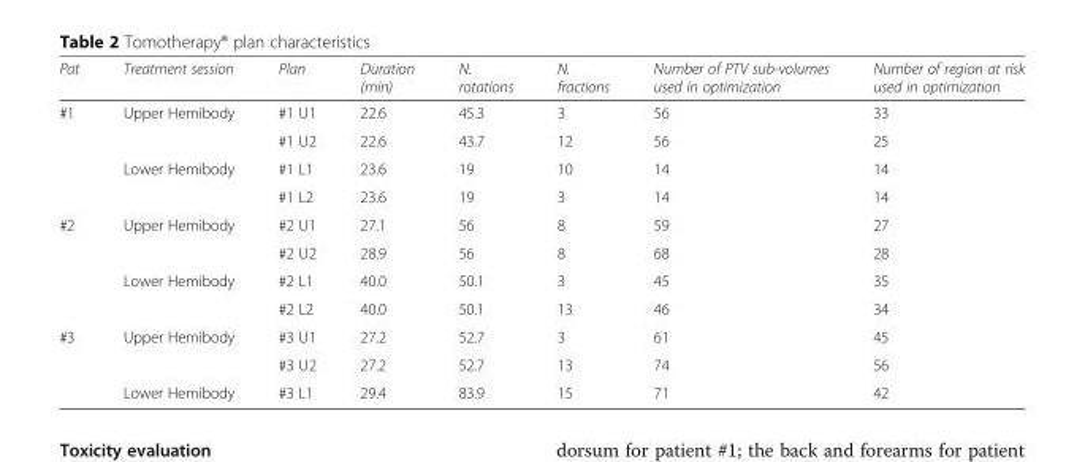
<table><thead><tr><td>Pat</td><td>Treatment session</td><td>Plan</td><td>Duration (min)</td><td>N. rotations</td><td>N. fractions</td><td>Number of PTV sub-volumes used in optimization</td><td>Number of region at risk used in optimization</td></tr></thead><tbody><tr><td rowspan="4">#1</td><td rowspan="2">Upper Hemibody</td><td>#1 U1</td><td>22.6</td><td>45.3</td><td>3</td><td>56</td><td>33</td></tr><tr><td>#1 U2</td><td>22.6</td><td>43.7</td><td>12</td><td>56</td><td>25</td></tr><tr><td rowspan="2">Lower Hemibody</td><td>#1 L1</td><td>23.6</td><td>19</td><td>10</td><td>14</td><td>14</td></tr><tr><td>#1 L2</td><td>23.6</td><td>19</td><td>3</td><td>14</td><td>14</td></tr><tr><td rowspan="4">#2</td><td rowspan="2">Upper Hemibody</td><td>#2 U1</td><td>27.1</td><td>56</td><td>8</td><td>59</td><td>27</td></tr><tr><td>#2 U2</td><td>28.9</td><td>56</td><td>8</td><td>68</td><td>28</td></tr><tr><td rowspan="2">Lower Hemibody</td><td>#2 L1</td><td>40.0</td><td>50.1</td><td>3</td><td>45</td><td>35</td></tr><tr><td>#2 L2</td><td>40.0</td><td>50.1</td><td>13</td><td>46</td><td>34</td></tr><tr><td rowspan="3">#3</td><td rowspan="2">Upper Hemibody</td><td>#3 U1</td><td>27.2</td><td>52.7</td><td>3</td><td>61</td><td>45</td></tr><tr><td>#3 U2</td><td>27.2</td><td>52.7</td><td>13</td><td>74</td><td>56</td></tr><tr><td>Lower Hemibody</td><td>#3 L1</td><td>29.4</td><td>83.9</td><td>15</td><td>71</td><td>42</td></tr></tbody></table>